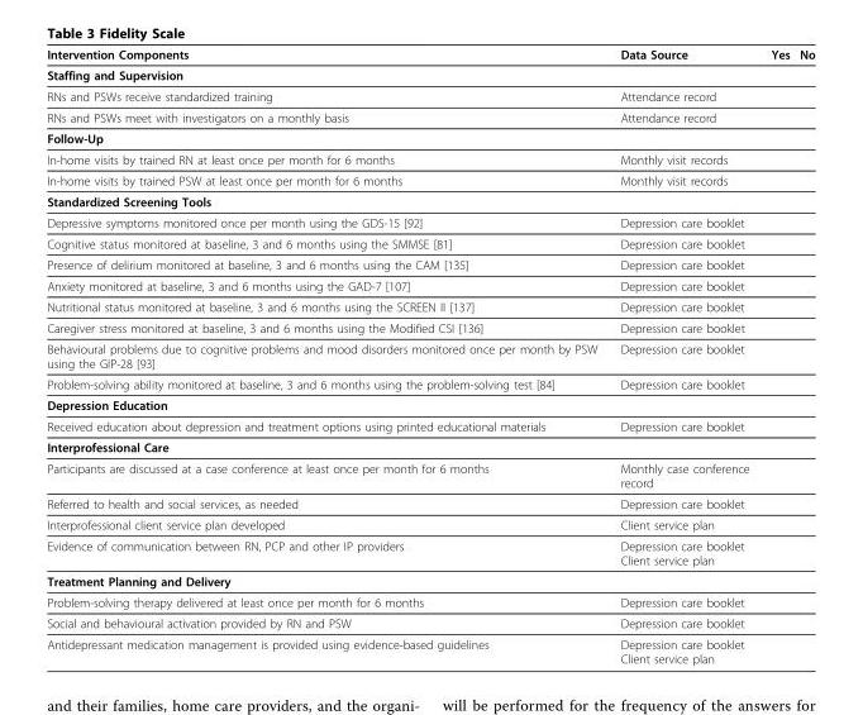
<table><thead><tr><td>Intervention Components</td><td>Data Source</td><td>Yes</td><td>No</td></tr></thead><tbody><tr><td colspan="4">Staffing and Supervision</td></tr><tr><td>RNs and PSWs receive standardized training</td><td>Attendance record</td><td></td><td></td></tr><tr><td>RNs and PSWs meet with investigators on a monthly basis</td><td>Attendance record</td><td></td><td></td></tr><tr><td colspan="4">Follow-Up</td></tr><tr><td>In-home visits by trained RN at least once per month for 6 months</td><td>Monthly visit records</td><td></td><td></td></tr><tr><td>In-home visits by trained PSW at least once per month for 6 months</td><td>Monthly visit records</td><td></td><td></td></tr><tr><td colspan="4">Standardized Screening Tools</td></tr><tr><td>Depressive symptoms monitored once per month using the GDS-15 [92]</td><td>Depression care booklet</td><td></td><td></td></tr><tr><td>Cognitive status monitored at baseline, 3 and 6 months using the SMMSE [81]</td><td>Depression care booklet</td><td></td><td></td></tr><tr><td>Presence of delirium monitored at baseline, 3 and 6 months using the CAM [135]</td><td>Depression care booklet</td><td></td><td></td></tr><tr><td>Anxiety monitored at baseline, 3 and 6 months using the GAD-7 [107]</td><td>Depression care booklet</td><td></td><td></td></tr><tr><td>Nutritional status monitored at baseline, 3 and 6 months using the SCREEN II [137]</td><td>Depression care booklet</td><td></td><td></td></tr><tr><td>Caregiver stress monitored at baseline, 3 and 6 months using the Modified CSI [136]</td><td>Depression care booklet</td><td></td><td></td></tr><tr><td>Behavioural problems due to cognitive problems and mood disorders monitored once per month by PSW using the GIP-28 [93]</td><td>Depression care booklet</td><td></td><td></td></tr><tr><td>Problem-solving ability monitored at baseline, 3 and 6 months using the problem-solving test [84]</td><td>Depression care booklet</td><td></td><td></td></tr><tr><td colspan="4">Depression Education</td></tr><tr><td>Received education about depression and treatment options using printed educational materials</td><td>Depression care booklet</td><td></td><td></td></tr><tr><td colspan="4">Interprofessional Care</td></tr><tr><td>Participants are discussed at a case conference at least once per month for 6 months</td><td>Monthly case conference record</td><td></td><td></td></tr><tr><td>Referred to health and social services, as needed</td><td>Depression care booklet</td><td></td><td></td></tr><tr><td>Interprofessional client service plan developed</td><td>Client service plan</td><td></td><td></td></tr><tr><td>Evidence of communication between RN, PCP and other IP providers</td><td>Depression care booklet Client service plan</td><td></td><td></td></tr><tr><td colspan="4">Treatment Planning and Delivery</td></tr><tr><td>Problem-solving therapy delivered at least once per month for 6 months</td><td>Depression care booklet</td><td></td><td></td></tr><tr><td>Social and behavioural activation provided by RN and PSW</td><td>Depression care booklet</td><td></td><td></td></tr><tr><td>Antidepressant medication management is provided using evidence-based guidelines</td><td>Depression care booklet Client service plan</td><td></td><td></td></tr></tbody></table>